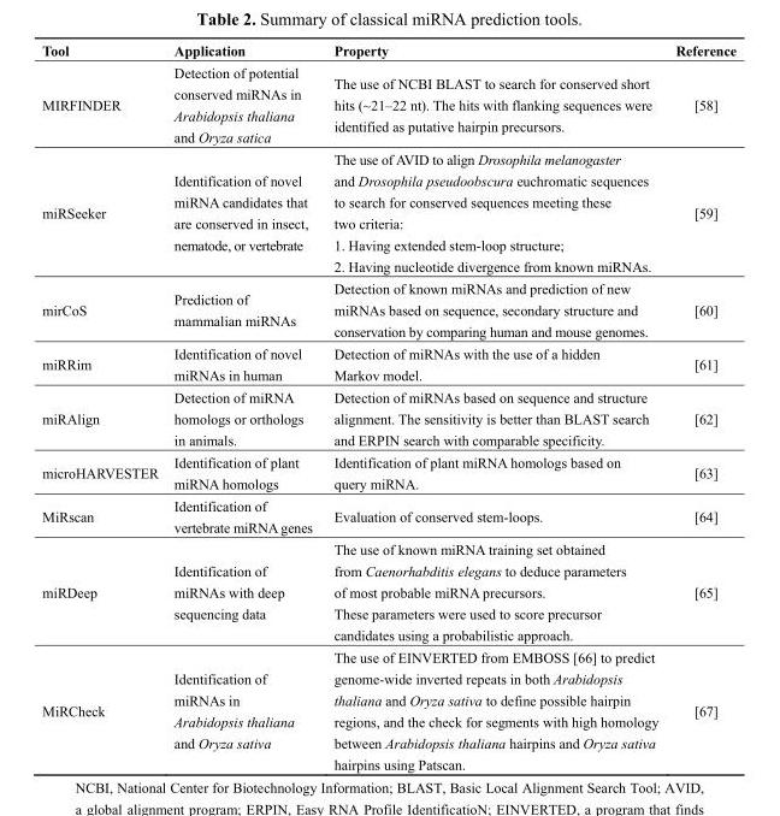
<table><thead><tr><td>Tool</td><td>Application</td><td>Property</td><td>Reference</td></tr></thead><tbody><tr><td>MIRFINDER</td><td>Detection of potential conserved miRNAs in Arabidopsis thaliana and Oryza satica</td><td>The use of NCBI BLAST to search for conserved short hits (~21–22 nt). The hits with flanking sequences were identified as putative hairpin precursors.</td><td>[58]</td></tr><tr><td>miRSeeker</td><td>Identification of novel miRNA candidates that are conserved in insect, nematode, or vertebrate</td><td>The use of AVID to align Drosophila melanogaster and Drosophila pseudoobscura euchromatic sequences to search for conserved sequences meeting these two criteria: 1. Having extended stem-loop structure; 2. Having nucleotide divergence from known miRNAs.</td><td>[59]</td></tr><tr><td>mirCoS</td><td>Prediction of mammalian miRNAs</td><td>Detection of known miRNAs and prediction of new miRNAs based on sequence, secondary structure and conservation by comparing human and mouse genomes.</td><td>[60]</td></tr><tr><td>miRRim</td><td>Identification of novel miRNAs in human</td><td>Detection of miRNAs with the use of a hidden Markov model.</td><td>[61]</td></tr><tr><td>miRAlign</td><td>Detection of miRNA homologs or orthologs in animals.</td><td>Detection of miRNAs based on sequence and structure alignment. The sensitivity is better than BLAST search and ERPIN search with comparable specificity.</td><td>[62]</td></tr><tr><td>microHARVESTER</td><td>Identification of plant miRNA homologs</td><td>Identification of plant miRNA homologs based on query miRNA.</td><td>[63]</td></tr><tr><td>MiRscan</td><td>Identification of vertebrate miRNA genes</td><td>Evaluation of conserved stem-loops.</td><td>[64]</td></tr><tr><td>miRDeep</td><td>Identification of miRNAs with deep sequencing data</td><td>The use of known miRNA training set obtained from Caenorhabditis elegans to deduce parameters of most probable miRNA precursors. These parameters were used to score precursor candidates using a probabilistic approach.</td><td>[65]</td></tr><tr><td>MiRCheck</td><td>Identification of miRNAs in Arabidopsis thaliana and Oryza sativa</td><td>The use of EINVERTED from EMBOSS [66] to predict genome-wide inverted repeats in both Arabidopsis thaliana and Oryza sativa to define possible hairpin regions, and the check for segments with high homology between Arabidopsis thaliana hairpins and Oryza sativa hairpins using Patscan.</td><td>[67]</td></tr></tbody></table>